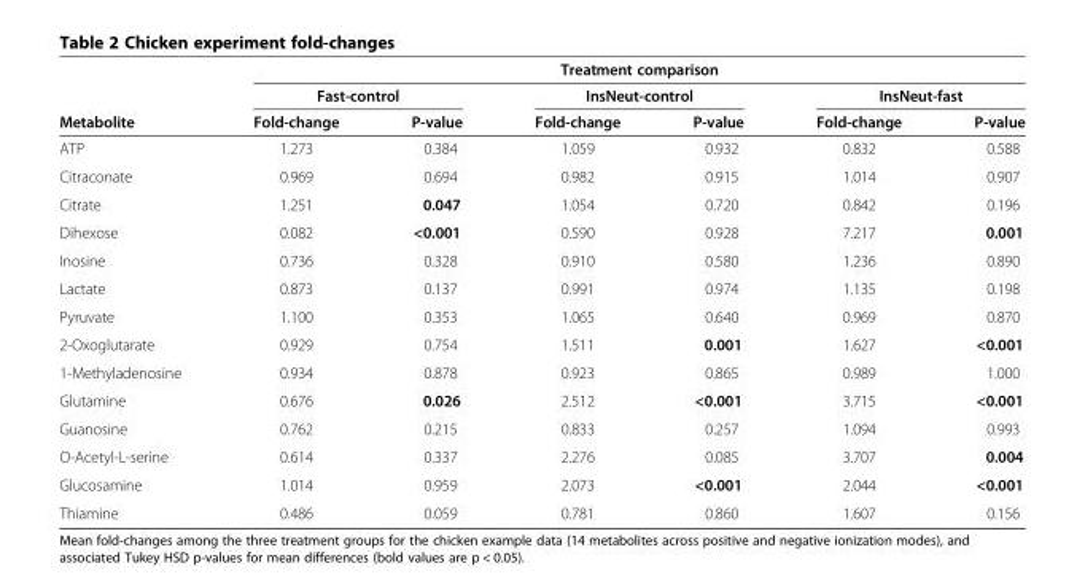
<table><thead><tr><td rowspan="3">Metabolite</td><td colspan="6">Treatment comparison</td></tr><tr><td colspan="2">Fast-control</td><td colspan="2">InsNeut-control</td><td colspan="2">InsNeut-fast</td></tr><tr><td>Fold-change</td><td>P-value</td><td>Fold-change</td><td>P-value</td><td>Fold-change</td><td>P-value</td></tr></thead><tbody><tr><td>ATP</td><td>1.273</td><td>0.384</td><td>1.059</td><td>0.932</td><td>0.832</td><td>0.588</td></tr><tr><td>Citraconate</td><td>0.969</td><td>0.694</td><td>0.982</td><td>0.915</td><td>1.014</td><td>0.907</td></tr><tr><td>Citrate</td><td>1.251</td><td>0.047</td><td>1.054</td><td>0.720</td><td>0.842</td><td>0.196</td></tr><tr><td>Dihexose</td><td>0.082</td><td>&lt;0.001</td><td>0.590</td><td>0.928</td><td>7.217</td><td>0.001</td></tr><tr><td>Inosine</td><td>0.736</td><td>0.328</td><td>0.910</td><td>0.580</td><td>1.236</td><td>0.890</td></tr><tr><td>Lactate</td><td>0.873</td><td>0.137</td><td>0.991</td><td>0.974</td><td>1.135</td><td>0.198</td></tr><tr><td>Pyruvate</td><td>1.100</td><td>0.353</td><td>1.065</td><td>0.640</td><td>0.969</td><td>0.870</td></tr><tr><td>2-Oxoglutarate</td><td>0.929</td><td>0.754</td><td>1.511</td><td>0.001</td><td>1.627</td><td>&lt;0.001</td></tr><tr><td>1-Methyladenosine</td><td>0.934</td><td>0.878</td><td>0.923</td><td>0.865</td><td>0.989</td><td>1.000</td></tr><tr><td>Glutamine</td><td>0.676</td><td>0.026</td><td>2.512</td><td>&lt;0.001</td><td>3.715</td><td>&lt;0.001</td></tr><tr><td>Guanosine</td><td>0.762</td><td>0.215</td><td>0.833</td><td>0.257</td><td>1.094</td><td>0.993</td></tr><tr><td>O-Acetyl-L-serine</td><td>0.614</td><td>0.337</td><td>2.276</td><td>0.085</td><td>3.707</td><td>0.004</td></tr><tr><td>Glucosamine</td><td>1.014</td><td>0.959</td><td>2.073</td><td>&lt;0.001</td><td>2.044</td><td>&lt;0.001</td></tr><tr><td>Thiamine</td><td>0.486</td><td>0.059</td><td>0.781</td><td>0.860</td><td>1.607</td><td>0.156</td></tr></tbody></table>